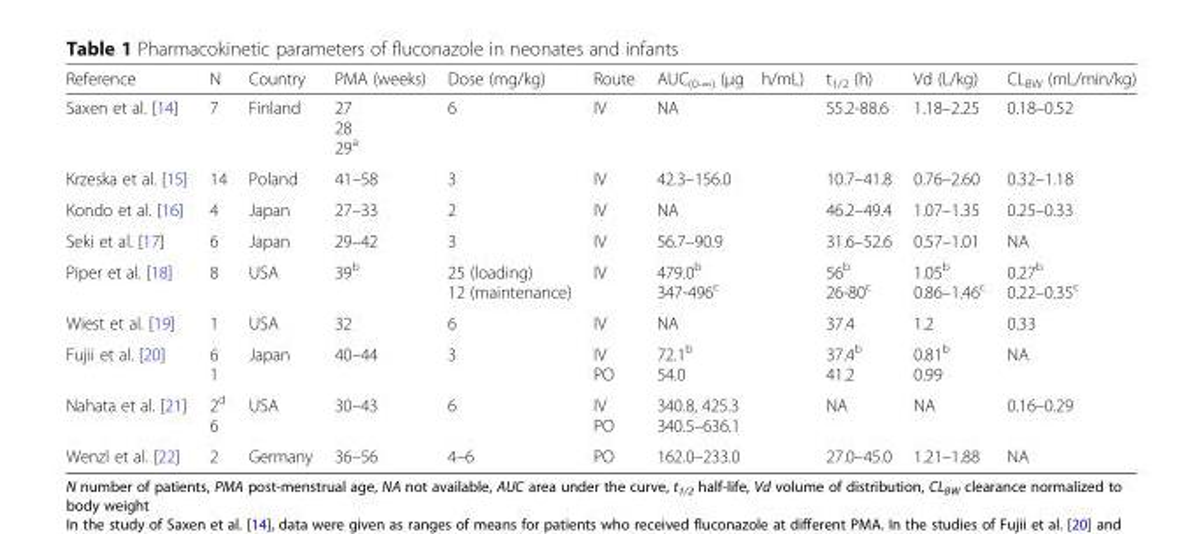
<table><thead><tr><td>Reference</td><td>N</td><td>Country</td><td>PMA (weeks)</td><td>Dose (mg/kg)</td><td>Route</td><td>AUC(0-∞) (μg h/mL)</td><td>t<sub>1/2</sub> (h)</td><td>Vd (L/kg)</td><td>CL<sub>BW</sub> (mL/min/kg)</td></tr></thead><tbody><tr><td>Saxen et al. [14]</td><td>7</td><td>Finland</td><td>27 28 29<sup>a</sup></td><td>6</td><td>IV</td><td>NA</td><td>55.2-88.6</td><td>1.18–2.25</td><td>0.18–0.52</td></tr><tr><td>Krzeska et al. [15]</td><td>14</td><td>Poland</td><td>41–58</td><td>3</td><td>IV</td><td>42.3–156.0</td><td>10.7–41.8</td><td>0.76–2.60</td><td>0.32–1.18</td></tr><tr><td>Kondo et al. [16]</td><td>4</td><td>Japan</td><td>27–33</td><td>2</td><td>IV</td><td>NA</td><td>46.2–49.4</td><td>1.07–1.35</td><td>0.25–0.33</td></tr><tr><td>Seki et al. [17]</td><td>6</td><td>Japan</td><td>29–42</td><td>3</td><td>IV</td><td>56.7–90.9</td><td>31.6–52.6</td><td>0.57–1.01</td><td>NA</td></tr><tr><td>Piper et al. [18]</td><td>8</td><td>USA</td><td>39<sup>b</sup></td><td>25 (loading) 12 (maintenance)</td><td>IV</td><td>479.0<sup>b</sup> 347-496<sup>c</sup></td><td>56<sup>b</sup> 26-80<sup>c</sup></td><td>1.05<sup>b</sup> 0.86–1.46<sup>c</sup></td><td>0.27<sup>b</sup> 0.22–0.35<sup>c</sup></td></tr><tr><td>Wiest et al. [19]</td><td>1</td><td>USA</td><td>32</td><td>6</td><td>IV</td><td>NA</td><td>37.4</td><td>1.2</td><td>0.33</td></tr><tr><td>Fujii et al. [20]</td><td>6 1</td><td>Japan</td><td>40–44</td><td>3</td><td>IV PO</td><td>72.1<sup>b</sup> 54.0</td><td>37.4<sup>b</sup> 41.2</td><td>0.81<sup>b</sup> 0.99</td><td>NA</td></tr><tr><td>Nahata et al. [21]</td><td>2<sup>d</sup> 6</td><td>USA</td><td>30–43</td><td>6</td><td>IV PO</td><td>340.8, 425.3 340.5–636.1</td><td>NA</td><td>NA</td><td>0.16–0.29</td></tr><tr><td>Wenzl et al. [22]</td><td>2</td><td>Germany</td><td>36–56</td><td>4–6</td><td>PO</td><td>162.0–233.0</td><td>27.0–45.0</td><td>1.21–1.88</td><td>NA</td></tr></tbody></table>